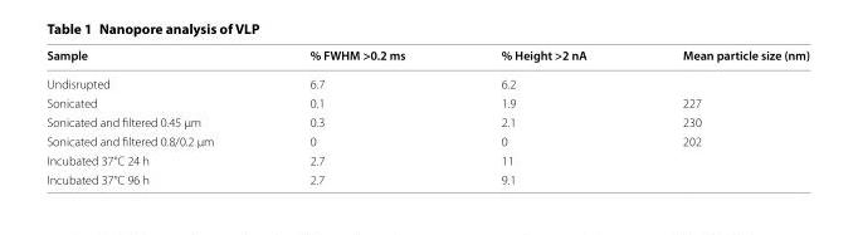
<table><thead><tr><td>Sample</td><td>% FWHM &gt;0.2 ms</td><td>% Height &gt;2 nA</td><td>Mean particle size (nm)</td></tr></thead><tbody><tr><td>Undisrupted</td><td>6.7</td><td>6.2</td><td></td></tr><tr><td>Sonicated</td><td>0.1</td><td>1.9</td><td>227</td></tr><tr><td>Sonicated and filtered 0.45 µm</td><td>0.3</td><td>2.1</td><td>230</td></tr><tr><td>Sonicated and filtered 0.8/0.2 µm</td><td>0</td><td>0</td><td>202</td></tr><tr><td>Incubated 37°C 24 h</td><td>2.7</td><td>11</td><td></td></tr><tr><td>Incubated 37°C 96 h</td><td>2.7</td><td>9.1</td><td></td></tr></tbody></table>